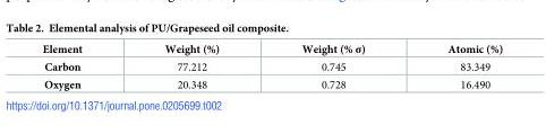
<table><thead><tr><td>Element</td><td>Weight (%)</td><td>Weight (% σ)</td><td>Atomic (%)</td></tr></thead><tbody><tr><td>Carbon</td><td>77.212</td><td>0.745</td><td>83.349</td></tr><tr><td>Oxygen</td><td>20.348</td><td>0.728</td><td>16.490</td></tr></tbody></table>